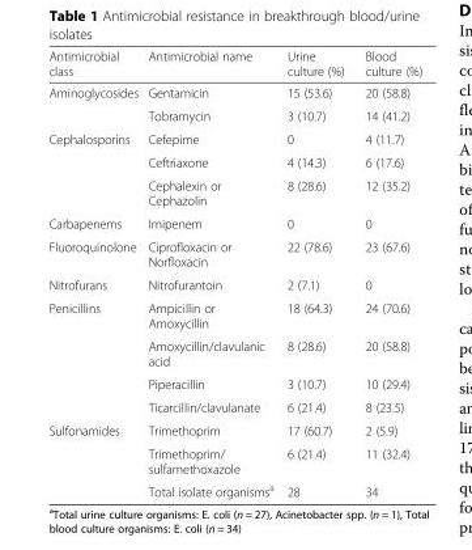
<table><thead><tr><td>Antimicrobial class</td><td>Antimicrobial name</td><td>Urine culture (%)</td><td>Blood culture (%)</td></tr></thead><tbody><tr><td rowspan="2">Aminoglycosides</td><td>Gentamicin</td><td>15 (53.6)</td><td>20 (58.8)</td></tr><tr><td>Tobramycin</td><td>3 (10.7)</td><td>14 (41.2)</td></tr><tr><td rowspan="3">Cephalosporins</td><td>Cefepime</td><td>0</td><td>4 (11.7)</td></tr><tr><td>Ceftriaxone</td><td>4 (14.3)</td><td>6 (17.6)</td></tr><tr><td>Cephalexin or Cephazolin</td><td>8 (28.6)</td><td>12 (35.2)</td></tr><tr><td>Carbapenems</td><td>Imipenem</td><td>0</td><td>0</td></tr><tr><td>Fluoroquinolone</td><td>Ciprofloxacin or Norfloxacin</td><td>22 (78.6)</td><td>23 (67.6)</td></tr><tr><td>Nitrofurans</td><td>Nitrofurantoin</td><td>2 (7.1)</td><td>0</td></tr><tr><td rowspan="4">Penicillins</td><td>Ampicillin or Amoxycillin</td><td>18 (64.3)</td><td>24 (70.6)</td></tr><tr><td>Amoxycillin/clavulanic acid</td><td>8 (28.6)</td><td>20 (58.8)</td></tr><tr><td>Piperacillin</td><td>3 (10.7)</td><td>10 (29.4)</td></tr><tr><td>Ticarcillin/clavulanate</td><td>6 (21.4)</td><td>8 (23.5)</td></tr><tr><td rowspan="3">Sulfonamides</td><td>Trimethoprim</td><td>17 (60.7)</td><td>2 (5.9)</td></tr><tr><td>Trimethoprim/ sulfamethoxazole</td><td>6 (21.4)</td><td>11 (32.4)</td></tr><tr><td>Total isolate organisms<sup>a</sup></td><td>28</td><td>34</td></tr></tbody></table>